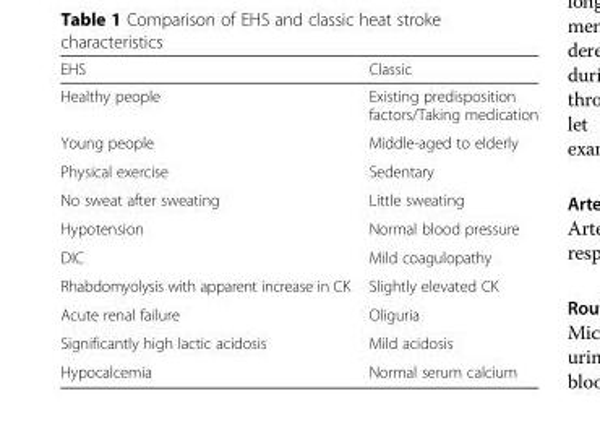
<table><thead><tr><td>EHS</td><td>Classic</td></tr></thead><tbody><tr><td>Healthy people</td><td>Existing predisposition factors/Taking medication</td></tr><tr><td>Young people</td><td>Middle-aged to elderly</td></tr><tr><td>Physical exercise</td><td>Sedentary</td></tr><tr><td>No sweat after sweating</td><td>Little sweating</td></tr><tr><td>Hypotension</td><td>Normal blood pressure</td></tr><tr><td>DIC</td><td>Mild coagulopathy</td></tr><tr><td>Rhabdomyolysis with apparent increase in CK</td><td>Slightly elevated CK</td></tr><tr><td>Acute renal failure</td><td>Oliguria</td></tr><tr><td>Significantly high lactic acidosis</td><td>Mild acidosis</td></tr><tr><td>Hypocalcemia</td><td>Normal serum calcium</td></tr></tbody></table>